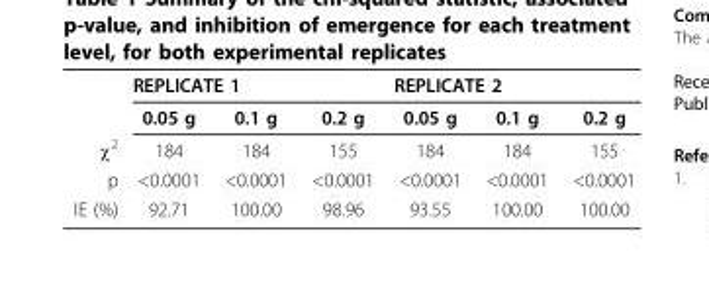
<table><thead><tr><td rowspan="2"></td><td colspan="2">REPLICATE 1</td><td rowspan="2">0.2 g</td><td colspan="2">REPLICATE 2</td><td rowspan="2">0.2 g</td></tr><tr><td>0.05 g</td><td>0.1 g</td><td>0.05 g</td><td>0.1 g</td></tr></thead><tbody><tr><td>χ<sup>2</sup></td><td>184</td><td>184</td><td>155</td><td>184</td><td>184</td><td>155</td></tr><tr><td>p</td><td>&lt;0.0001</td><td>&lt;0.0001</td><td>&lt;0.0001</td><td>&lt;0.0001</td><td>&lt;0.0001</td><td>&lt;0.0001</td></tr><tr><td>IE (%)</td><td>92.71</td><td>100.00</td><td>98.96</td><td>93.55</td><td>100.00</td><td>100.00</td></tr></tbody></table>